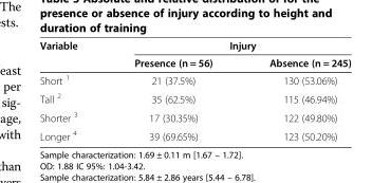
<table><thead><tr><td rowspan="2">Variable</td><td colspan="2">Injury</td></tr><tr><td>Presence (n = 56)</td><td>Absence (n = 245)</td></tr></thead><tbody><tr><td>Short <sup>1</sup></td><td>21 (37.5%)</td><td>130 (53.06%)</td></tr><tr><td>Tall <sup>2</sup></td><td>35 (62.5%)</td><td>115 (46.94%)</td></tr><tr><td>Shorter <sup>3</sup></td><td>17 (30.35%)</td><td>122 (49.80%)</td></tr><tr><td>Longer <sup>4</sup></td><td>39 (69.65%)</td><td>123 (50.20%)</td></tr></tbody></table>